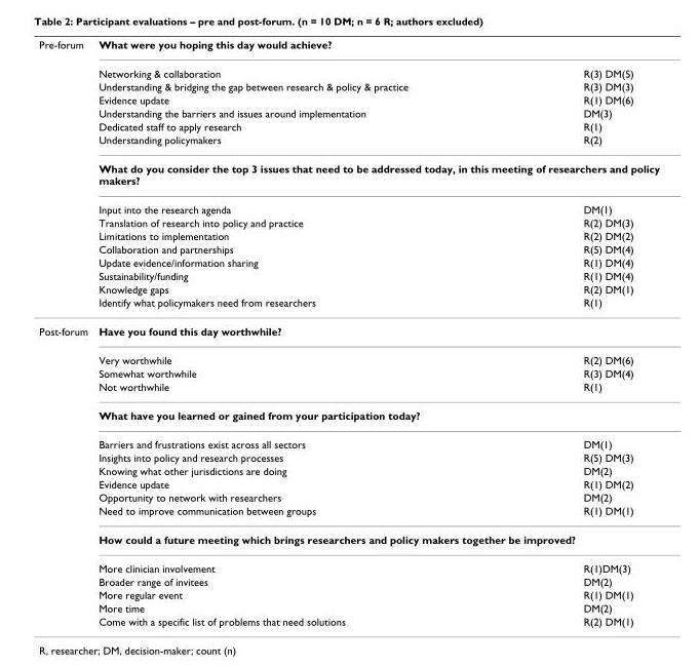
<table><thead><tr><td rowspan="16">Pre-forum</td><td colspan="2">What were you hoping this day would achieve?</td></tr><tr><td rowspan="6">Networking &amp; collaboration Understanding &amp; bridging the gap between research &amp; policy &amp; practice Evidence update Understanding the barriers and issues around implementation Dedicated staff to apply research Understanding policymakers</td><td rowspan="6">R(3) DM(5) R(3) DM(3) R(1) DM(6) DM(3) R(1) R(2)</td></tr><tr></tr><tr></tr><tr></tr><tr></tr><tr></tr><tr><td colspan="2">What do you consider the top 3 issues that need to be addressed today, in this meeting of researchers and policy makers?</td></tr><tr><td rowspan="8">Input into the research agenda Translation of research into policy and practice Limitations to implementation Collaboration and partnerships Update evidence/information sharing Sustainability/funding Knowledge gaps Identify what policymakers need from researchers</td><td rowspan="8">DM(1) R(2) DM(3) R(2) DM(2) R(5) DM(4) R(1) DM(4) R(1) DM(4) R(2) DM(1) R(1)</td></tr><tr></tr><tr></tr><tr></tr><tr></tr><tr></tr><tr></tr><tr></tr></thead><tbody><tr><td rowspan="17">Post-forum</td><td colspan="2">Have you found this day worthwhile?</td></tr><tr><td>Very worthwhile</td><td>R(2) DM(6)</td></tr><tr><td>Somewhat worthwhile</td><td>R(3) DM(4)</td></tr><tr><td>Not worthwhile</td><td>R(1)</td></tr><tr><td colspan="2">What have you learned or gained from your participation today?</td></tr><tr><td>Barriers and frustrations exist across all sectors</td><td>DM(1)</td></tr><tr><td>Insights into policy and research processes</td><td>R(5) DM(3)</td></tr><tr><td>Knowing what other jurisdictions are doing</td><td>DM(2)</td></tr><tr><td>Evidence update</td><td>R(1) DM(2)</td></tr><tr><td>Opportunity to network with researchers</td><td>DM(2)</td></tr><tr><td>Need to improve communication between groups</td><td>R(1) DM(1)</td></tr><tr><td colspan="2">How could a future meeting which brings researchers and policy makers together be improved?</td></tr><tr><td>More clinician involvement</td><td>R(1)DM(3)</td></tr><tr><td>Broader range of invitees</td><td>DM(2)</td></tr><tr><td>More regular event</td><td>R(1) DM(1)</td></tr><tr><td>More time</td><td>DM(2)</td></tr><tr><td>Come with a specific list of problems that need solutions</td><td>R(2) DM(1)</td></tr></tbody></table>